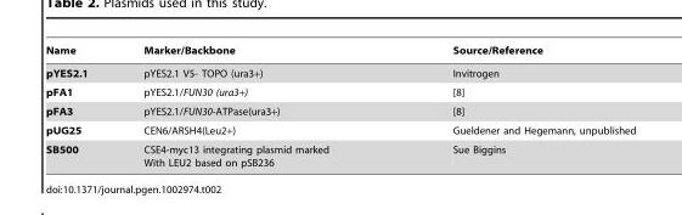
<table><thead><tr><td>Name</td><td>Marker/Backbone</td><td>Source/Reference</td></tr></thead><tbody><tr><td>pYES2.1</td><td>pYES2.1 V5- TOPO (ura3+)</td><td>Invitrogen</td></tr><tr><td>pFA1</td><td>pYES2.1/FUN30 (ura3+)</td><td>[8]</td></tr><tr><td>pFA3</td><td>pYES2.1/FUN30-ATPase(ura3+)</td><td>[8]</td></tr><tr><td>pUG25</td><td>CEN6/ARSH4(Leu2+)</td><td>Gueldener and Hegemann, unpublished</td></tr><tr><td>SB500</td><td>CSE4-myc13 integrating plasmid marked With LEU2 based on pSB236</td><td>Sue Biggins</td></tr></tbody></table>